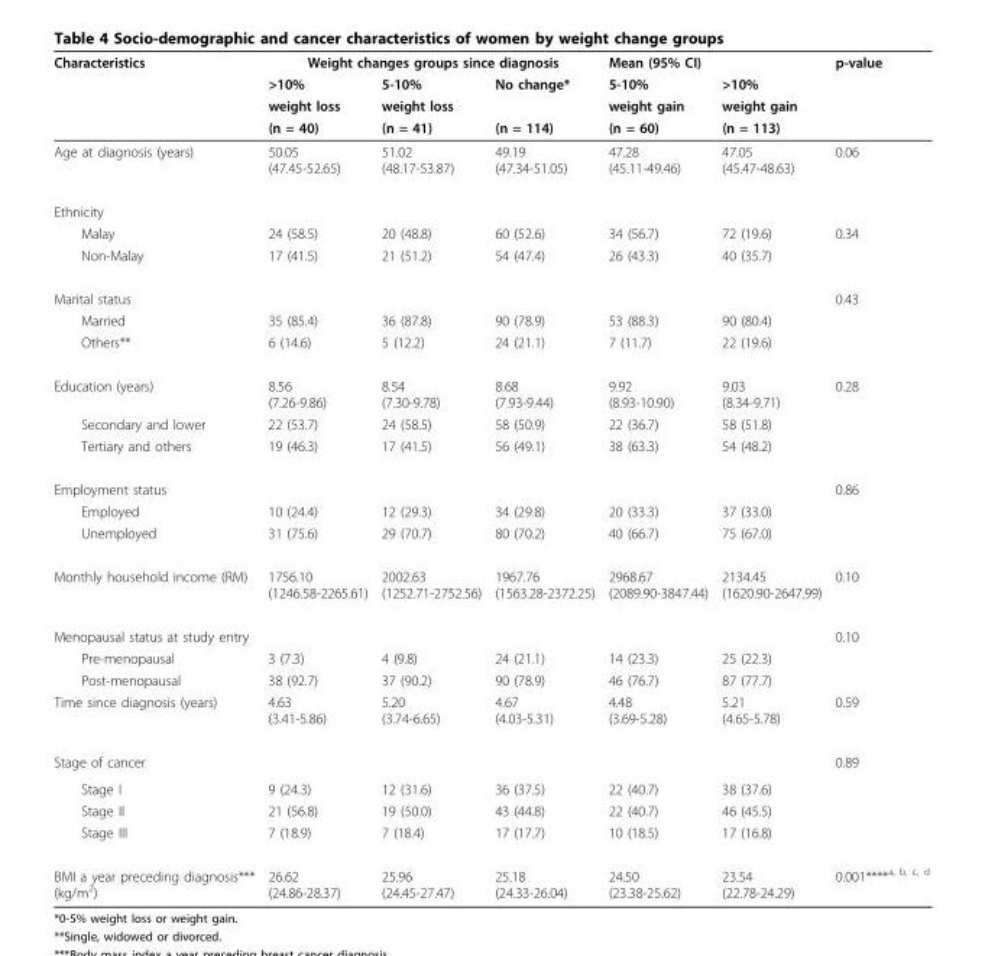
<table><thead><tr><td rowspan="4">Characteristics</td><td colspan="3">Weight changes groups since diagnosis</td><td colspan="2">Mean (95% CI)</td><td rowspan="4">p-value</td></tr><tr><td rowspan="3">&gt;10% weight loss (n = 40)</td><td rowspan="3">5-10% weight loss (n = 41)</td><td rowspan="3">No change* (n = 114)</td><td rowspan="3">5-10% weight gain (n = 60)</td><td rowspan="3">&gt;10% weight gain (n = 113)</td></tr><tr></tr><tr></tr></thead><tbody><tr><td>Age at diagnosis (years)</td><td>50.05 (47.45-52.65)</td><td>51.02 (48.17-53.87)</td><td>49.19 (47.34-51.05)</td><td>47.28 (45.11-49.46)</td><td>47.05 (45.47-48.63)</td><td>0.06</td></tr><tr><td colspan="7">Ethnicity</td></tr><tr><td>Malay</td><td>24 (58.5)</td><td>20 (48.8)</td><td>60 (52.6)</td><td>34 (56.7)</td><td>72 (19.6)</td><td>0.34</td></tr><tr><td>Non-Malay</td><td>17 (41.5)</td><td>21 (51.2)</td><td>54 (47.4)</td><td>26 (43.3)</td><td>40 (35.7)</td><td></td></tr><tr><td>Marital status</td><td></td><td></td><td></td><td></td><td></td><td>0.43</td></tr><tr><td>Married</td><td>35 (85.4)</td><td>36 (87.8)</td><td>90 (78.9)</td><td>53 (88.3)</td><td>90 (80.4)</td><td></td></tr><tr><td>Others**</td><td>6 (14.6)</td><td>5 (12.2)</td><td>24 (21.1)</td><td>7 (11.7)</td><td>22 (19.6)</td><td></td></tr><tr><td>Education (years)</td><td>8.56 (7.26-9.86)</td><td>8.54 (7.30-9.78)</td><td>8.68 (7.93-9.44)</td><td>9.92 (8.93-10.90)</td><td>9.03 (8.34-9.71)</td><td>0.28</td></tr><tr><td>Secondary and lower</td><td>22 (53.7)</td><td>24 (58.5)</td><td>58 (50.9)</td><td>22 (36.7)</td><td>58 (51.8)</td><td></td></tr><tr><td>Tertiary and others</td><td>19 (46.3)</td><td>17 (41.5)</td><td>56 (49.1)</td><td>38 (63.3)</td><td>54 (48.2)</td><td></td></tr><tr><td>Employment status</td><td></td><td></td><td></td><td></td><td></td><td>0.86</td></tr><tr><td>Employed</td><td>10 (24.4)</td><td>12 (29.3)</td><td>34 (29.8)</td><td>20 (33.3)</td><td>37 (33.0)</td><td></td></tr><tr><td>Unemployed</td><td>31 (75.6)</td><td>29 (70.7)</td><td>80 (70.2)</td><td>40 (66.7)</td><td>75 (67.0)</td><td></td></tr><tr><td>Monthly household income (RM)</td><td>1756.10 (1246.58-2265.61)</td><td>2002.63 (1252.71-2752.56)</td><td>1967.76 (1563.28-2372.25)</td><td>2968.67 (2089.90-3847.44)</td><td>2134.45 (1620.90-2647.99)</td><td>0.10</td></tr><tr><td>Menopausal status at study entry</td><td></td><td></td><td></td><td></td><td></td><td>0.10</td></tr><tr><td>Pre-menopausal</td><td>3 (7.3)</td><td>4 (9.8)</td><td>24 (21.1)</td><td>14 (23.3)</td><td>25 (22.3)</td><td></td></tr><tr><td>Post-menopausal</td><td>38 (92.7)</td><td>37 (90.2)</td><td>90 (78.9)</td><td>46 (76.7)</td><td>87 (77.7)</td><td></td></tr><tr><td>Time since diagnosis (years)</td><td>4.63 (3.41-5.86)</td><td>5.20 (3.74-6.65)</td><td>4.67 (4.03-5.31)</td><td>4.48 (3.69-5.28)</td><td>5.21 (4.65-5.78)</td><td>0.59</td></tr><tr><td>Stage of cancer</td><td></td><td></td><td></td><td></td><td></td><td>0.89</td></tr><tr><td>Stage I</td><td>9 (24.3)</td><td>12 (31.6)</td><td>36 (37.5)</td><td>22 (40.7)</td><td>38 (37.6)</td><td></td></tr><tr><td>Stage II</td><td>21 (56.8)</td><td>19 (50.0)</td><td>43 (44.8)</td><td>22 (40.7)</td><td>46 (45.5)</td><td></td></tr><tr><td>Stage III</td><td>7 (18.9)</td><td>7 (18.4)</td><td>17 (17.7)</td><td>10 (18.5)</td><td>17 (16.8)</td><td></td></tr><tr><td>BMI a year preceding diagnosis*** (kg/m<sup>2</sup>)</td><td>26.62 (24.86-28.37)</td><td>25.96 (24.45-27.47)</td><td>25.18 (24.33-26.04)</td><td>24.50 (23.38-25.62)</td><td>23.54 (22.78-24.29)</td><td>0.001****<sup>a, b, c, d</sup></td></tr></tbody></table>